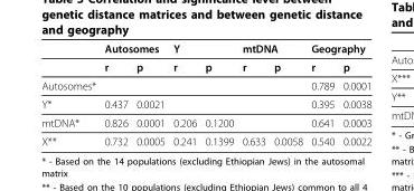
<table><thead><tr><td rowspan="2"></td><td colspan="2">Autosomes</td><td colspan="2">Y</td><td colspan="2">mtDNA</td><td colspan="2">Geography</td></tr><tr><td>r</td><td>p</td><td>r</td><td>p</td><td>r</td><td>p</td><td>r</td><td>p</td></tr></thead><tbody><tr><td>Autosomes*</td><td></td><td></td><td></td><td></td><td></td><td></td><td>0.789</td><td>0.0001</td></tr><tr><td>Y*</td><td>0.437</td><td>0.0021</td><td></td><td></td><td></td><td></td><td>0.395</td><td>0.0038</td></tr><tr><td>mtDNA*</td><td>0.826</td><td>0.0001</td><td>0.206</td><td>0.1200</td><td></td><td></td><td>0.641</td><td>0.0003</td></tr><tr><td>X**</td><td>0.732</td><td>0.0005</td><td>0.241</td><td>0.1399</td><td>0.633</td><td>0.0058</td><td>0.540</td><td>0.0022</td></tr></tbody></table>